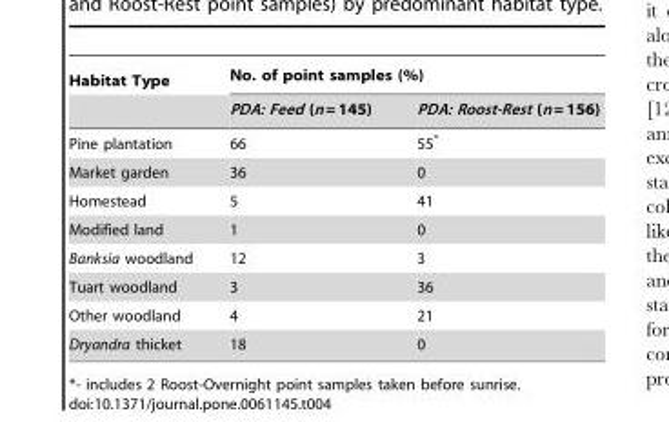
<table><thead><tr><td rowspan="2">Habitat Type</td><td colspan="2">No. of point samples (%)</td></tr><tr><td>PDA: Feed (n = 145)</td><td>PDA: Roost-Rest (n = 156)</td></tr></thead><tbody><tr><td>Pine plantation</td><td>66</td><td>55*</td></tr><tr><td>Market garden</td><td>36</td><td>0</td></tr><tr><td>Homestead</td><td>5</td><td>41</td></tr><tr><td>Modified land</td><td>1</td><td>0</td></tr><tr><td>Banksia woodland</td><td>12</td><td>3</td></tr><tr><td>Tuart woodland</td><td>3</td><td>36</td></tr><tr><td>Other woodland</td><td>4</td><td>21</td></tr><tr><td>Dryandra thicket</td><td>18</td><td>0</td></tr></tbody></table>